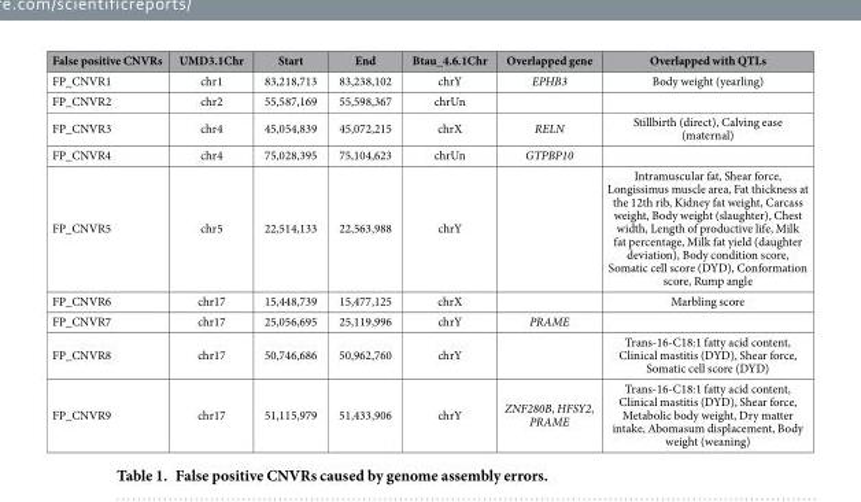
<table><thead><tr><td>False positive CNVRs</td><td>UMD3.1Chr</td><td>Start</td><td>End</td><td>Btau_4.6.1Chr</td><td>Overlapped gene</td><td>Overlapped with QTLs</td></tr></thead><tbody><tr><td>FP_CNVR1</td><td>chr1</td><td>83,218,713</td><td>83,238,102</td><td>chrY</td><td>EPHB3</td><td>Body weight (yearling)</td></tr><tr><td>FP_CNVR2</td><td>chr2</td><td>55,587,169</td><td>55,598,367</td><td>chrUn</td><td></td><td></td></tr><tr><td>FP_CNVR3</td><td>chr4</td><td>45,054,839</td><td>45,072,215</td><td>chrX</td><td>RELN</td><td>Stillbirth (direct), Calving ease (maternal)</td></tr><tr><td>FP_CNVR4</td><td>chr4</td><td>75,028,395</td><td>75,104,623</td><td>chrUn</td><td>GTPBP10</td><td></td></tr><tr><td>FP_CNVR5</td><td>chr5</td><td>22,514,133</td><td>22,563,988</td><td>chrY</td><td></td><td>Intramuscular fat, Shear force, Longissimus muscle area, Fat thickness at the 12th rib, Kidney fat weight, Carcass weight, Body weight (slaughter), Chest width, Length of productive life, Milk fat percentage, Milk fat yield (daughter deviation), Body condition score, Somatic cell score (DYD), Conformation score, Rump angle</td></tr><tr><td>FP_CNVR6</td><td>chr17</td><td>15,448,739</td><td>15,477,125</td><td>chrX</td><td></td><td>Marbling score</td></tr><tr><td>FP_CNVR7</td><td>chr17</td><td>25,056,695</td><td>25,119,996</td><td>chrY</td><td>PRAME</td><td></td></tr><tr><td>FP_CNVR8</td><td>chr17</td><td>50,746,686</td><td>50,962,760</td><td>chrY</td><td></td><td>Trans-16-C18:1 fatty acid content, Clinical mastitis (DYD), Shear force, Somatic cell score (DYD)</td></tr><tr><td>FP_CNVR9</td><td>chr17</td><td>51,115,979</td><td>51,433,906</td><td>chrY</td><td>ZNF280B, HFSY2, PRAME</td><td>Trans-16-C18:1 fatty acid content, Clinical mastitis (DYD), Shear force, Metabolic body weight, Dry matter intake, Abomasum displacement, Body weight (weaning)</td></tr></tbody></table>